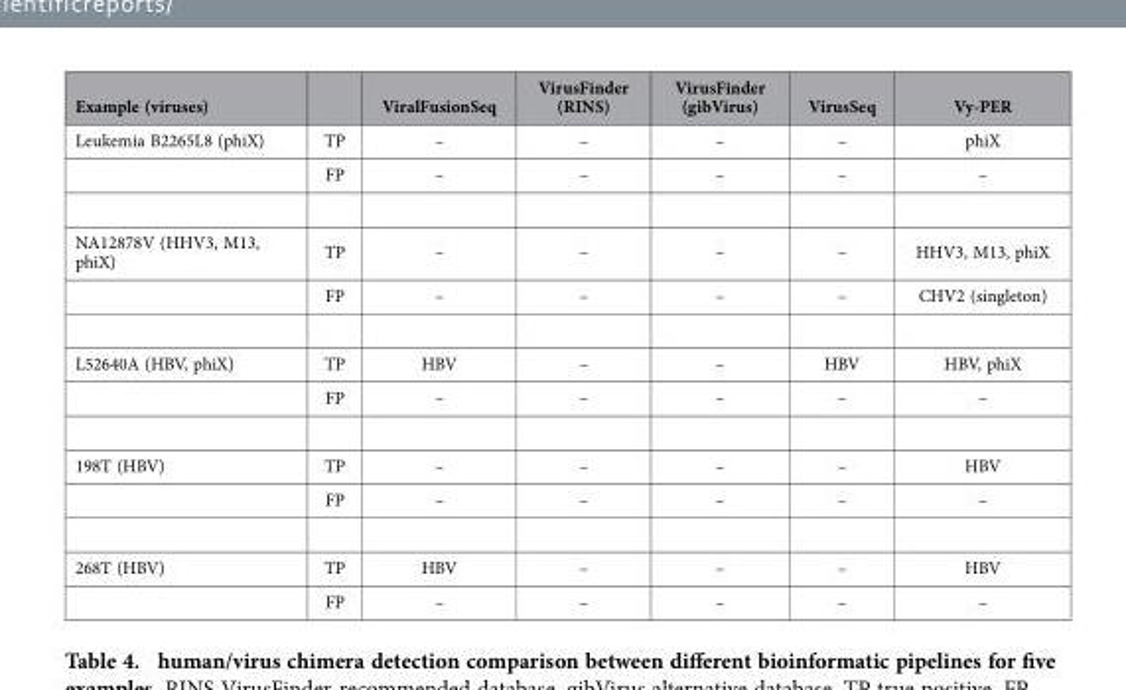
<table><thead><tr><td>Example (viruses)</td><td></td><td>ViralFusionSeq</td><td>VirusFinder (RINS)</td><td>VirusFinder (gibVirus)</td><td>VirusSeq</td><td>Vy-PER</td></tr></thead><tbody><tr><td rowspan="2">Leukemia B2265L8 (phiX)</td><td>TP</td><td>–</td><td>–</td><td>–</td><td>–</td><td>phiX</td></tr><tr><td>FP</td><td>–</td><td>–</td><td>–</td><td>–</td><td>–</td></tr><tr><td rowspan="2">NA12878V (HHV3, M13, phiX)</td><td>TP</td><td>–</td><td>–</td><td>–</td><td>–</td><td>HHV3, M13, phiX</td></tr><tr><td>FP</td><td>–</td><td>–</td><td>–</td><td>–</td><td>CHV2 (singleton)</td></tr><tr><td rowspan="2">L52640A (HBV, phiX)</td><td>TP</td><td>HBV</td><td>–</td><td>–</td><td>HBV</td><td>HBV, phiX</td></tr><tr><td>FP</td><td>–</td><td>–</td><td>–</td><td>–</td><td>–</td></tr><tr><td rowspan="2">198T (HBV)</td><td>TP</td><td>–</td><td>–</td><td>–</td><td>–</td><td>HBV</td></tr><tr><td>FP</td><td>–</td><td>–</td><td>–</td><td>–</td><td>–</td></tr><tr><td rowspan="2">268T (HBV)</td><td>TP</td><td>HBV</td><td>–</td><td>–</td><td>–</td><td>HBV</td></tr><tr><td>FP</td><td>–</td><td>–</td><td>–</td><td>–</td><td>–</td></tr></tbody></table>